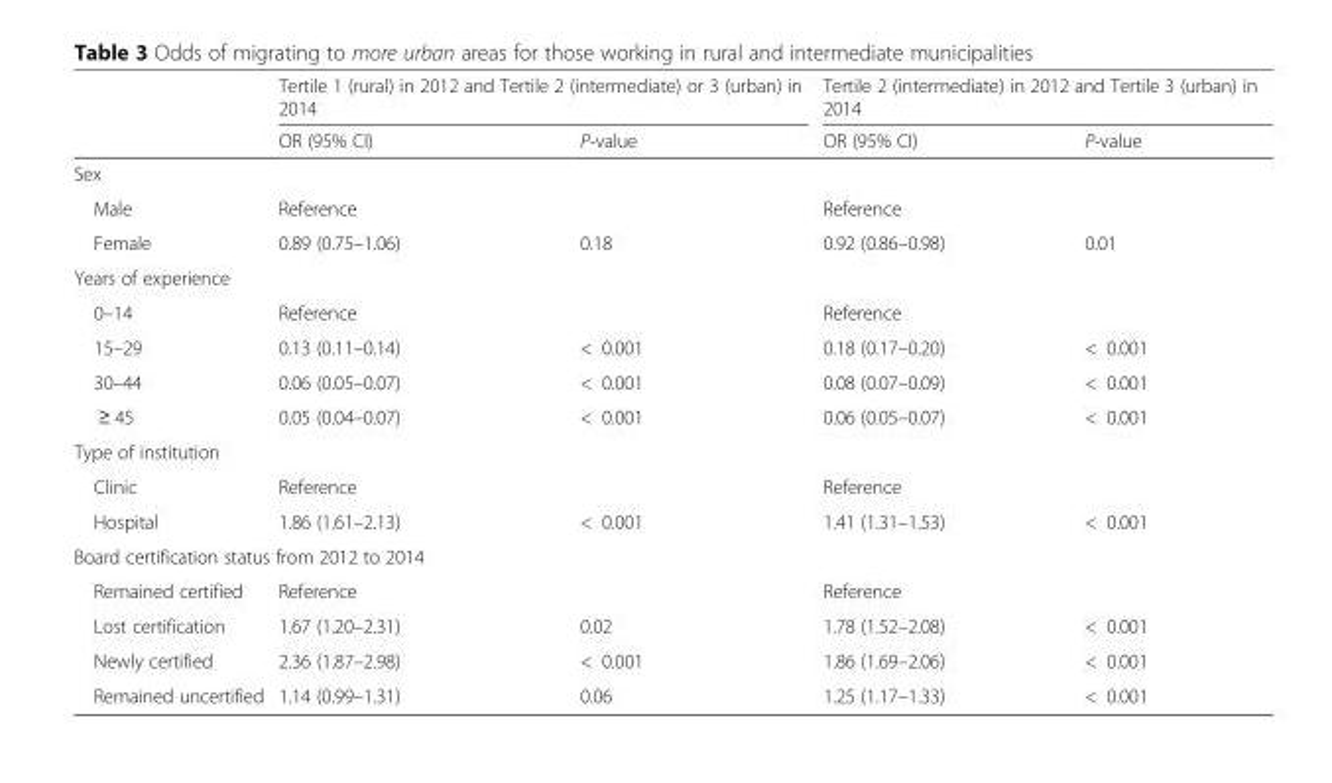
<table><thead><tr><td rowspan="2"></td><td colspan="2">Tertile 1 (rural) in 2012 and Tertile 2 (intermediate) or 3 (urban) in 2014</td><td colspan="2">Tertile 2 (intermediate) in 2012 and Tertile 3 (urban) in 2014</td></tr><tr><td>OR (95% CI)</td><td>P-value</td><td>OR (95% CI)</td><td>P-value</td></tr></thead><tbody><tr><td colspan="5">Sex</td></tr><tr><td>Male</td><td>Reference</td><td></td><td>Reference</td><td></td></tr><tr><td>Female</td><td>0.89 (0.75–1.06)</td><td>0.18</td><td>0.92 (0.86–0.98)</td><td>0.01</td></tr><tr><td colspan="5">Years of experience</td></tr><tr><td>0–14</td><td>Reference</td><td></td><td>Reference</td><td></td></tr><tr><td>15–29</td><td>0.13 (0.11–0.14)</td><td>&lt; 0.001</td><td>0.18 (0.17–0.20)</td><td>&lt; 0.001</td></tr><tr><td>30–44</td><td>0.06 (0.05–0.07)</td><td>&lt; 0.001</td><td>0.08 (0.07–0.09)</td><td>&lt; 0.001</td></tr><tr><td>≥ 45</td><td>0.05 (0.04–0.07)</td><td>&lt; 0.001</td><td>0.06 (0.05–0.07)</td><td>&lt; 0.001</td></tr><tr><td colspan="5">Type of institution</td></tr><tr><td>Clinic</td><td>Reference</td><td></td><td>Reference</td><td></td></tr><tr><td>Hospital</td><td>1.86 (1.61–2.13)</td><td>&lt; 0.001</td><td>1.41 (1.31–1.53)</td><td>&lt; 0.001</td></tr><tr><td colspan="5">Board certification status from 2012 to 2014</td></tr><tr><td>Remained certified</td><td>Reference</td><td></td><td>Reference</td><td></td></tr><tr><td>Lost certification</td><td>1.67 (1.20–2.31)</td><td>0.02</td><td>1.78 (1.52–2.08)</td><td>&lt; 0.001</td></tr><tr><td>Newly certified</td><td>2.36 (1.87–2.98)</td><td>&lt; 0.001</td><td>1.86 (1.69–2.06)</td><td>&lt; 0.001</td></tr><tr><td>Remained uncertified</td><td>1.14 (0.99–1.31)</td><td>0.06</td><td>1.25 (1.17–1.33)</td><td>&lt; 0.001</td></tr></tbody></table>